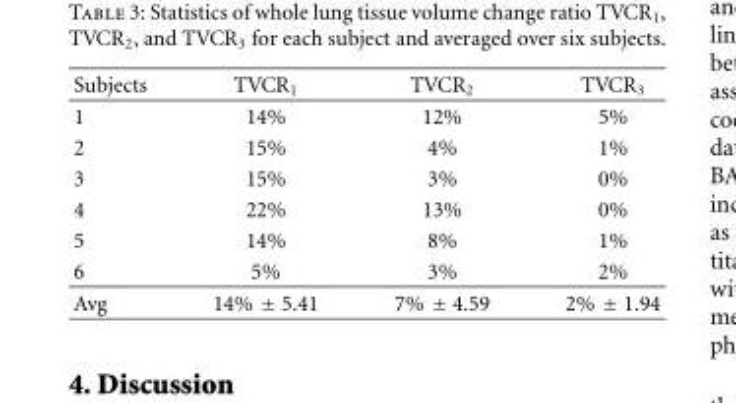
<table><thead><tr><td>Subjects</td><td>TVCR<sub>1</sub></td><td>TVCR<sub>2</sub></td><td>TVCR<sub>3</sub></td></tr></thead><tbody><tr><td>1</td><td>14%</td><td>12%</td><td>5%</td></tr><tr><td>2</td><td>15%</td><td>4%</td><td>1%</td></tr><tr><td>3</td><td>15%</td><td>3%</td><td>0%</td></tr><tr><td>4</td><td>22%</td><td>13%</td><td>0%</td></tr><tr><td>5</td><td>14%</td><td>8%</td><td>1%</td></tr><tr><td>6</td><td>5%</td><td>3%</td><td>2%</td></tr><tr><td>Avg</td><td>14% ± 5.41</td><td>7% ± 4.59</td><td>2% ± 1.94</td></tr></tbody></table>